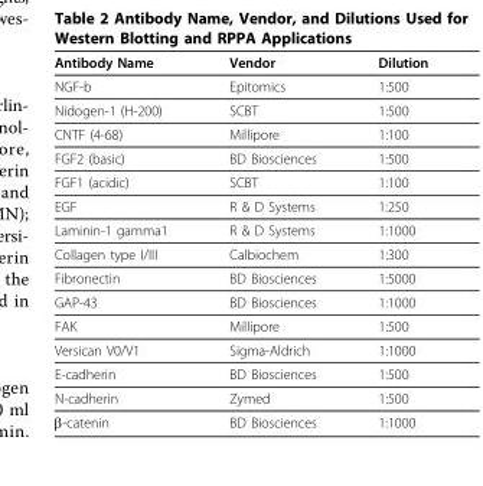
<table><thead><tr><td>Antibody Name</td><td>Vendor</td><td>Dilution</td></tr></thead><tbody><tr><td>NGF-b</td><td>Epitomics</td><td>1:500</td></tr><tr><td>Nidogen-1 (H-200)</td><td>SCBT</td><td>1:500</td></tr><tr><td>CNTF (4-68)</td><td>Millipore</td><td>1:100</td></tr><tr><td>FGF2 (basic)</td><td>BD Biosciences</td><td>1:500</td></tr><tr><td>FGF1 (acidic)</td><td>SCBT</td><td>1:100</td></tr><tr><td>EGF</td><td>R &amp; D Systems</td><td>1:250</td></tr><tr><td>Laminin-1 gamma1</td><td>R &amp; D Systems</td><td>1:1000</td></tr><tr><td>Collagen type I/III</td><td>Calbiochem</td><td>1:300</td></tr><tr><td>Fibronectin</td><td>BD Biosciences</td><td>1:5000</td></tr><tr><td>GAP-43</td><td>BD Biosciences</td><td>1:1000</td></tr><tr><td>FAK</td><td>Millipore</td><td>1:500</td></tr><tr><td>Versican V0/V1</td><td>Sigma-Aldrich</td><td>1:1000</td></tr><tr><td>E-cadherin</td><td>BD Biosciences</td><td>1:500</td></tr><tr><td>N-cadherin</td><td>Zymed</td><td>1:500</td></tr><tr><td>β-catenin</td><td>BD Biosciences</td><td>1:1000</td></tr></tbody></table>